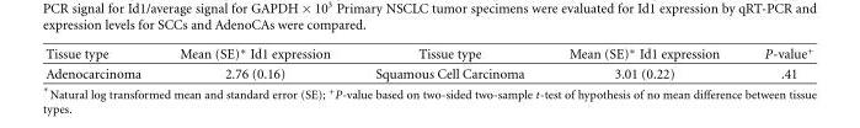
<table><thead><tr><td>Tissue type</td><td>Mean (SE)∗ Id1 expression</td><td>Tissue type</td><td>Mean (SE)∗ Id1 expression</td><td>P-value<sup>+</sup></td></tr></thead><tbody><tr><td>Adenocarcinoma</td><td>2.76 (0.16)</td><td>Squamous Cell Carcinoma</td><td>3.01 (0.22)</td><td>.41</td></tr></tbody></table>